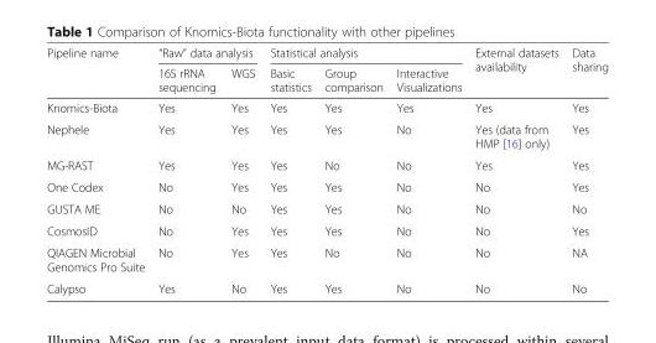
<table><thead><tr><td rowspan="2">Pipeline name</td><td colspan="2">“Raw” data analysis</td><td colspan="3">Statistical analysis</td><td rowspan="2">External datasets availability</td><td rowspan="2">Data sharing</td></tr><tr><td>16S rRNA sequencing</td><td>WGS</td><td>Basic statistics</td><td>Group comparison</td><td>Interactive Visualizations</td></tr></thead><tbody><tr><td>Knomics-Biota</td><td>Yes</td><td>Yes</td><td>Yes</td><td>Yes</td><td>Yes</td><td>Yes</td><td>Yes</td></tr><tr><td>Nephele</td><td>Yes</td><td>Yes</td><td>Yes</td><td>Yes</td><td>No</td><td>Yes (data from HMP [16] only)</td><td>Yes</td></tr><tr><td>MG-RAST</td><td>Yes</td><td>Yes</td><td>Yes</td><td>No</td><td>No</td><td>Yes</td><td>Yes</td></tr><tr><td>One Codex</td><td>No</td><td>Yes</td><td>Yes</td><td>Yes</td><td>No</td><td>No</td><td>Yes</td></tr><tr><td>GUSTA ME</td><td>No</td><td>No</td><td>Yes</td><td>Yes</td><td>No</td><td>No</td><td>No</td></tr><tr><td>CosmosID</td><td>No</td><td>Yes</td><td>Yes</td><td>Yes</td><td>No</td><td>No</td><td>Yes</td></tr><tr><td>QIAGEN Microbial Genomics Pro Suite</td><td>No</td><td>Yes</td><td>Yes</td><td>No</td><td>No</td><td>No</td><td>NA</td></tr><tr><td>Calypso</td><td>Yes</td><td>No</td><td>Yes</td><td>Yes</td><td>No</td><td>No</td><td>No</td></tr></tbody></table>